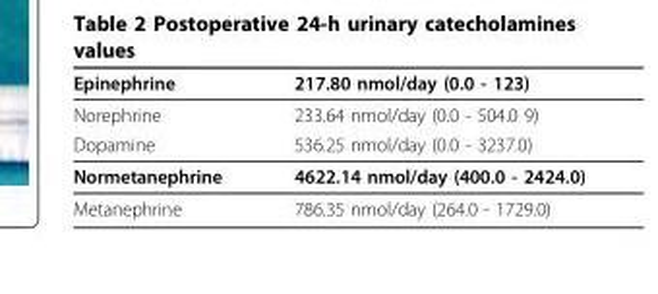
<table><thead><tr><td>Epinephrine</td><td>217.80 nmol/day (0.0 - 123)</td></tr></thead><tbody><tr><td>Norephrine</td><td>233.64 nmol/day (0.0 - 504.0 9)</td></tr><tr><td>Dopamine</td><td>536.25 nmol/day (0.0 - 3237.0)</td></tr><tr><td>Normetanephrine</td><td>4622.14 nmol/day (400.0 - 2424.0)</td></tr><tr><td>Metanephrine</td><td>786.35 nmol/day (264.0 - 1729.0)</td></tr></tbody></table>